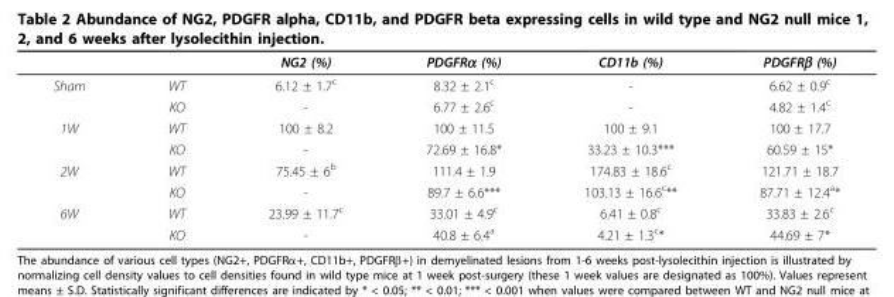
<table><thead><tr><td></td><td></td><td>NG2 (%)</td><td>PDGFRα (%)</td><td>CD11b (%)</td><td>PDGFRβ (%)</td></tr></thead><tbody><tr><td rowspan="2">Sham</td><td>WT</td><td>6.12 ± 1.7<sup>c</sup></td><td>8.32 ± 2.1<sup>c</sup></td><td>-</td><td>6.62 ± 0.9<sup>c</sup></td></tr><tr><td>KO</td><td>-</td><td>6.77 ± 2.6<sup>c</sup></td><td>-</td><td>4.82 ± 1.4<sup>c</sup></td></tr><tr><td rowspan="2">1W</td><td>WT</td><td>100 ± 8.2</td><td>100 ± 11.5</td><td>100 ± 9.1</td><td>100 ± 17.7</td></tr><tr><td>KO</td><td>-</td><td>72.69 ± 16.8*</td><td>33.23 ± 10.3***</td><td>60.59 ± 15*</td></tr><tr><td rowspan="2">2W</td><td>WT</td><td>75.45 ± 6<sup>b</sup></td><td>111.4 ± 1.9</td><td>174.83 ± 18.6<sup>c</sup></td><td>121.71 ± 18.7</td></tr><tr><td>KO</td><td>-</td><td>89.7 ± 6.6***</td><td>103.13 ± 16.6<sup>c</sup>**</td><td>87.71 ± 12.4<sup>a</sup>*</td></tr><tr><td rowspan="2">6W</td><td>WT</td><td>23.99 ± 11.7<sup>c</sup></td><td>33.01 ± 4.9<sup>c</sup></td><td>6.41 ± 0.8<sup>c</sup></td><td>33.83 ± 2.6<sup>c</sup></td></tr><tr><td>KO</td><td>-</td><td>40.8 ± 6.4<sup>a</sup></td><td>4.21 ± 1.3<sup>c</sup>*</td><td>44.69 ± 7*</td></tr></tbody></table>